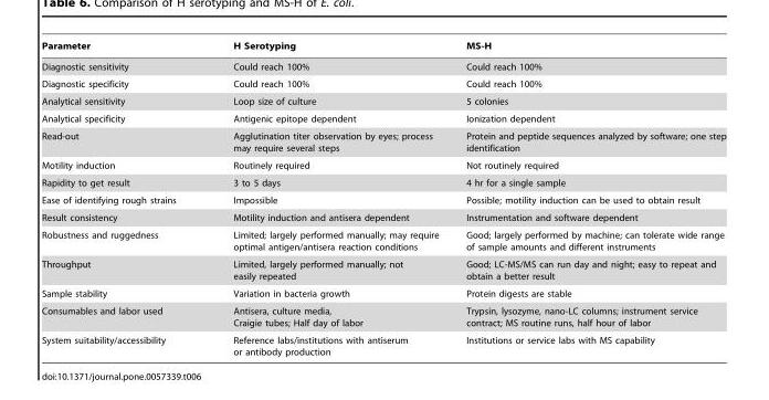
<table><thead><tr><td>Parameter</td><td>H Serotyping</td><td>MS-H</td></tr></thead><tbody><tr><td>Diagnostic sensitivity</td><td>Could reach 100%</td><td>Could reach 100%</td></tr><tr><td>Diagnostic specificity</td><td>Could reach 100%</td><td>Could reach 100%</td></tr><tr><td>Analytical sensitivity</td><td>Loop size of culture</td><td>5 colonies</td></tr><tr><td>Analytical specificity</td><td>Antigenic epitope dependent</td><td>Ionization dependent</td></tr><tr><td>Read-out</td><td>Agglutination titer observation by eyes; process may require several steps</td><td>Protein and peptide sequences analyzed by software; one step identification</td></tr><tr><td>Motility induction</td><td>Routinely required</td><td>Not routinely required</td></tr><tr><td>Rapidity to get result</td><td>3 to 5 days</td><td>4 hr for a single sample</td></tr><tr><td>Ease of identifying rough strains</td><td>Impossible</td><td>Possible; motility induction can be used to obtain result</td></tr><tr><td>Result consistency</td><td>Motility induction and antisera dependent</td><td>Instrumentation and software dependent</td></tr><tr><td>Robustness and ruggedness</td><td>Limited; largely performed manually; may require optimal antigen/antisera reaction conditions</td><td>Good; largely performed by machine; can tolerate wide range of sample amounts and different instruments</td></tr><tr><td>Throughput</td><td>Limited, largely performed manually; not easily repeated</td><td>Good; LC-MS/MS can run day and night; easy to repeat and obtain a better result</td></tr><tr><td>Sample stability</td><td>Variation in bacteria growth</td><td>Protein digests are stable</td></tr><tr><td>Consumables and labor used</td><td>Antisera, culture media, Craigie tubes; Half day of labor</td><td>Trypsin, lysozyme, nano-LC columns; instrument service contract; MS routine runs, half hour of labor</td></tr><tr><td>System suitability/accessibility</td><td>Reference labs/institutions with antiserum or antibody production</td><td>Institutions or service labs with MS capability</td></tr></tbody></table>